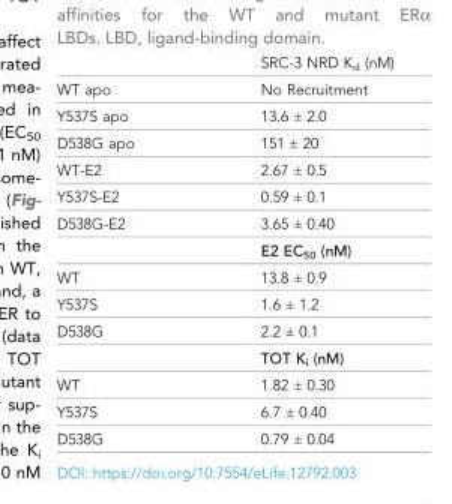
<table><thead><tr><td></td><td>SRC-3 NRD K<sub>d</sub> (nM)</td></tr></thead><tbody><tr><td>WT apo</td><td>No Recruitment</td></tr><tr><td>Y537S apo</td><td>13.6 ± 2.0</td></tr><tr><td>D538G apo</td><td>151 ± 20</td></tr><tr><td>WT-E2</td><td>2.67 ± 0.5</td></tr><tr><td>Y537S-E2</td><td>0.59 ± 0.1</td></tr><tr><td rowspan="2">D538G-E2</td><td>3.65 ± 0.40</td></tr><tr><td>E2 EC<sub>50</sub> (nM)</td></tr><tr><td>WT</td><td>13.8 ± 0.9</td></tr><tr><td>Y537S</td><td>1.6 ± 1.2</td></tr><tr><td rowspan="2">D538G</td><td>2.2 ± 0.1</td></tr><tr><td>TOT K<sub>i</sub> (nM)</td></tr><tr><td>WT</td><td>1.82 ± 0.30</td></tr><tr><td>Y537S</td><td>6.7 ± 0.40</td></tr><tr><td>D538G</td><td>0.79 ± 0.04</td></tr></tbody></table>